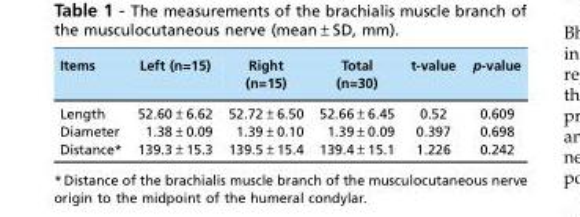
<table><thead><tr><td>Items</td><td>Left (n=15)</td><td>Right (n=15)</td><td>Total (n=30)</td><td>t-value</td><td>p-value</td></tr></thead><tbody><tr><td>Length</td><td>52.60±6.62</td><td>52.72±6.50</td><td>52.66±6.45</td><td>0.52</td><td>0.609</td></tr><tr><td>Diameter</td><td>1.38±0.09</td><td>1.39±0.10</td><td>1.39±0.09</td><td>0.397</td><td>0.698</td></tr><tr><td>Distance*</td><td>139.3±15.3</td><td>139.5±15.4</td><td>139.4±15.1</td><td>1.226</td><td>0.242</td></tr></tbody></table>